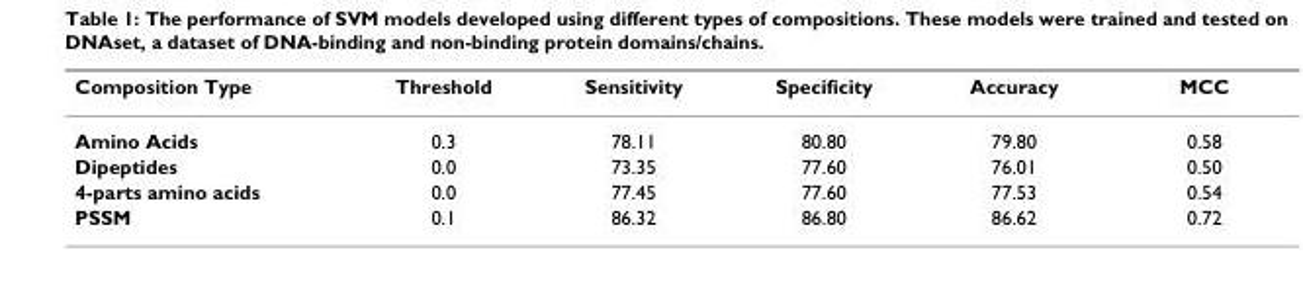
<table><thead><tr><td>Composition Type</td><td>Threshold</td><td>Sensitivity</td><td>Specificity</td><td>Accuracy</td><td>MCC</td></tr></thead><tbody><tr><td>Amino Acids</td><td>0.3</td><td>78.11</td><td>80.80</td><td>79.80</td><td>0.58</td></tr><tr><td>Dipeptides</td><td>0.0</td><td>73.35</td><td>77.60</td><td>76.01</td><td>0.50</td></tr><tr><td>4-parts amino acids</td><td>0.0</td><td>77.45</td><td>77.60</td><td>77.53</td><td>0.54</td></tr><tr><td>PSSM</td><td>0.1</td><td>86.32</td><td>86.80</td><td>86.62</td><td>0.72</td></tr></tbody></table>